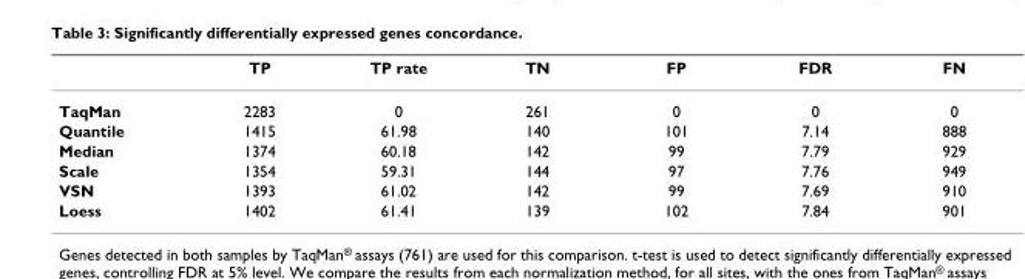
<table><thead><tr><td></td><td>TP</td><td>TP rate</td><td>TN</td><td>FP</td><td>FDR</td><td>FN</td></tr></thead><tbody><tr><td>TaqMan</td><td>2283</td><td>0</td><td>261</td><td>0</td><td>0</td><td>0</td></tr><tr><td>Quantile</td><td>1415</td><td>61.98</td><td>140</td><td>101</td><td>7.14</td><td>888</td></tr><tr><td>Median</td><td>1374</td><td>60.18</td><td>142</td><td>99</td><td>7.79</td><td>929</td></tr><tr><td>Scale</td><td>1354</td><td>59.31</td><td>144</td><td>97</td><td>7.76</td><td>949</td></tr><tr><td>VSN</td><td>1393</td><td>61.02</td><td>142</td><td>99</td><td>7.69</td><td>910</td></tr><tr><td>Loess</td><td>1402</td><td>61.41</td><td>139</td><td>102</td><td>7.84</td><td>901</td></tr></tbody></table>